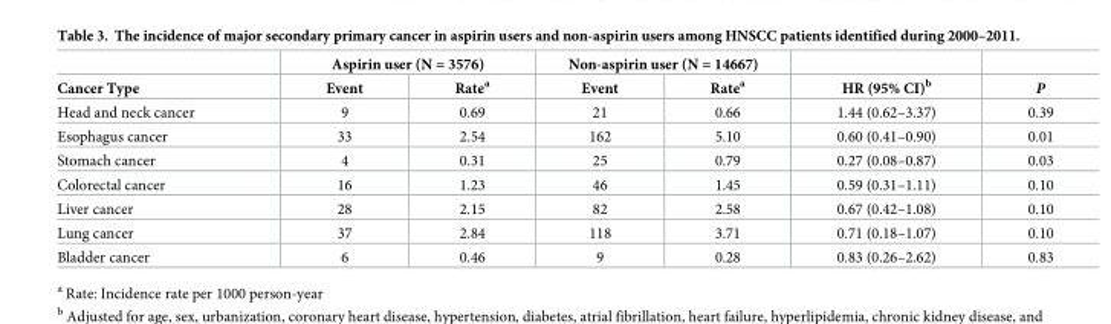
<table><thead><tr><td rowspan="2">Cancer Type</td><td colspan="2">Aspirin user (N = 3576)</td><td colspan="2">Non-aspirin user (N = 14667)</td><td rowspan="2">HR (95% CI)<sup>b</sup></td><td rowspan="2">P</td></tr><tr><td>Event</td><td>Rate<sup>a</sup></td><td>Event</td><td>Rate<sup>a</sup></td></tr></thead><tbody><tr><td>Head and neck cancer</td><td>9</td><td>0.69</td><td>21</td><td>0.66</td><td>1.44 (0.62–3.37)</td><td>0.39</td></tr><tr><td>Esophagus cancer</td><td>33</td><td>2.54</td><td>162</td><td>5.10</td><td>0.60 (0.41–0.90)</td><td>0.01</td></tr><tr><td>Stomach cancer</td><td>4</td><td>0.31</td><td>25</td><td>0.79</td><td>0.27 (0.08–0.87)</td><td>0.03</td></tr><tr><td>Colorectal cancer</td><td>16</td><td>1.23</td><td>46</td><td>1.45</td><td>0.59 (0.31–1.11)</td><td>0.10</td></tr><tr><td>Liver cancer</td><td>28</td><td>2.15</td><td>82</td><td>2.58</td><td>0.67 (0.42–1.08)</td><td>0.10</td></tr><tr><td>Lung cancer</td><td>37</td><td>2.84</td><td>118</td><td>3.71</td><td>0.71 (0.18–1.07)</td><td>0.10</td></tr><tr><td>Bladder cancer</td><td>6</td><td>0.46</td><td>9</td><td>0.28</td><td>0.83 (0.26–2.62)</td><td>0.83</td></tr></tbody></table>